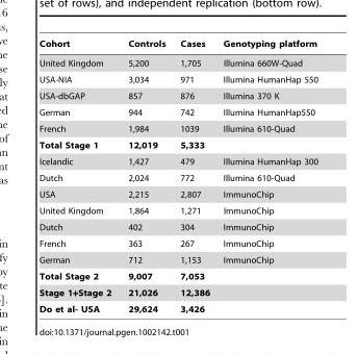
<table><thead><tr><td>Cohort</td><td>Controls</td><td>Cases</td><td>Genotyping platform</td></tr></thead><tbody><tr><td>United Kingdom</td><td>5,200</td><td>1,705</td><td>Illumina 660W-Quad</td></tr><tr><td>USA-NIA</td><td>3,034</td><td>971</td><td>Illumina HumanHap 550</td></tr><tr><td>USA-dbGAP</td><td>857</td><td>876</td><td>Illumina 370 K</td></tr><tr><td>German</td><td>944</td><td>742</td><td>Illumina HumanHap550</td></tr><tr><td>French</td><td>1,984</td><td>1039</td><td>Illumina 610-Quad</td></tr><tr><td>Total Stage 1</td><td>12,019</td><td>5,333</td><td></td></tr><tr><td>Icelandic</td><td>1,427</td><td>479</td><td>Illumina HumanHap 300</td></tr><tr><td>Dutch</td><td>2,024</td><td>772</td><td>Illumina 610-Quad</td></tr><tr><td>USA</td><td>2,215</td><td>2,807</td><td>ImmunoChip</td></tr><tr><td>United Kingdom</td><td>1,864</td><td>1,271</td><td>ImmunoChip</td></tr><tr><td>Dutch</td><td>402</td><td>304</td><td>ImmunoChip</td></tr><tr><td>French</td><td>363</td><td>267</td><td>ImmunoChip</td></tr><tr><td>German</td><td>712</td><td>1,153</td><td>ImmunoChip</td></tr><tr><td>Total Stage 2</td><td>9,007</td><td>7,053</td><td></td></tr><tr><td>Stage 1+Stage 2</td><td>21,026</td><td>12,386</td><td></td></tr><tr><td>Do et al- USA</td><td>29,624</td><td>3,426</td><td></td></tr></tbody></table>